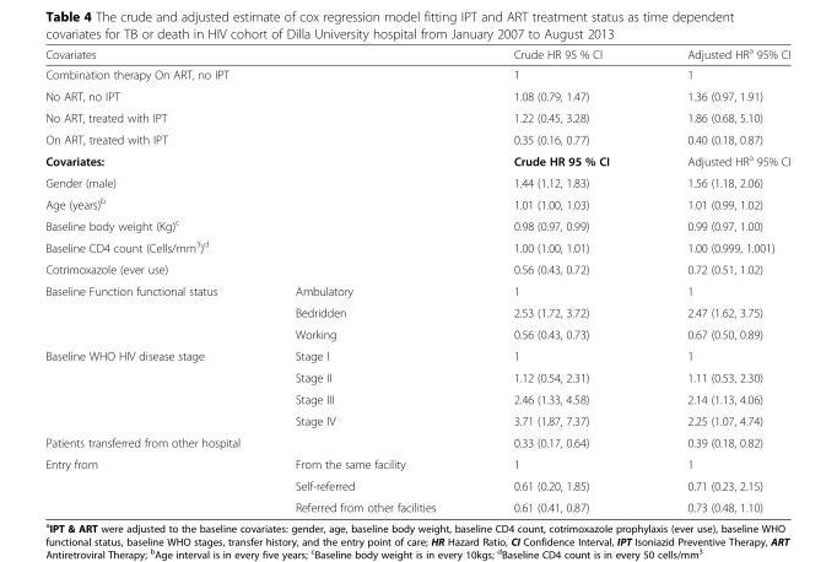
<table><thead><tr><td colspan="2">Covariates</td><td>Crude HR 95 % CI</td><td>Adjusted HR<sup>a</sup> 95% CI</td></tr></thead><tbody><tr><td colspan="2">Combination therapy On ART, no IPT</td><td>1</td><td>1</td></tr><tr><td colspan="2">No ART, no IPT</td><td>1.08 (0.79, 1.47)</td><td>1.36 (0.97, 1.91)</td></tr><tr><td colspan="2">No ART, treated with IPT</td><td>1.22 (0.45, 3.28)</td><td>1.86 (0.68, 5.10)</td></tr><tr><td colspan="2">On ART, treated with IPT</td><td>0.35 (0.16, 0.77)</td><td>0.40 (0.18, 0.87)</td></tr><tr><td colspan="2">Covariates:</td><td>Crude HR 95 % CI</td><td>Adjusted HR<sup>a</sup> 95% CI</td></tr><tr><td colspan="2">Gender (male)</td><td>1.44 (1.12, 1.83)</td><td>1.56 (1.18, 2.06)</td></tr><tr><td colspan="2">Age (years)<sup>b</sup></td><td>1.01 (1.00, 1.03)</td><td>1.01 (0.99, 1.02)</td></tr><tr><td colspan="2">Baseline body weight (Kg)<sup>c</sup></td><td>0.98 (0.97, 0.99)</td><td>0.99 (0.97, 1.00)</td></tr><tr><td colspan="2">Baseline CD4 count (Cells/mm<sup>3</sup>)<sup>d</sup></td><td>1.00 (1.00, 1.01)</td><td>1.00 (0.999, 1.001)</td></tr><tr><td colspan="2">Cotrimoxazole (ever use)</td><td>0.56 (0.43, 0.72)</td><td>0.72 (0.51, 1.02)</td></tr><tr><td rowspan="3">Baseline Function functional status</td><td>Ambulatory</td><td>1</td><td>1</td></tr><tr><td>Bedridden</td><td>2.53 (1.72, 3.72)</td><td>2.47 (1.62, 3.75)</td></tr><tr><td>Working</td><td>0.56 (0.43, 0.73)</td><td>0.67 (0.50, 0.89)</td></tr><tr><td rowspan="4">Baseline WHO HIV disease stage</td><td>Stage I</td><td>1</td><td>1</td></tr><tr><td>Stage II</td><td>1.12 (0.54, 2.31)</td><td>1.11 (0.53, 2.30)</td></tr><tr><td>Stage III</td><td>2.46 (1.33, 4.58)</td><td>2.14 (1.13, 4.06)</td></tr><tr><td>Stage IV</td><td>3.71 (1.87, 7.37)</td><td>2.25 (1.07, 4.74)</td></tr><tr><td colspan="2">Patients transferred from other hospital</td><td>0.33 (0.17, 0.64)</td><td>0.39 (0.18, 0.82)</td></tr><tr><td rowspan="3">Entry from</td><td>From the same facility</td><td>1</td><td>1</td></tr><tr><td>Self-referred</td><td>0.61 (0.20, 1.85)</td><td>0.71 (0.23, 2.15)</td></tr><tr><td>Referred from other facilities</td><td>0.61 (0.41, 0.87)</td><td>0.73 (0.48, 1.10)</td></tr></tbody></table>